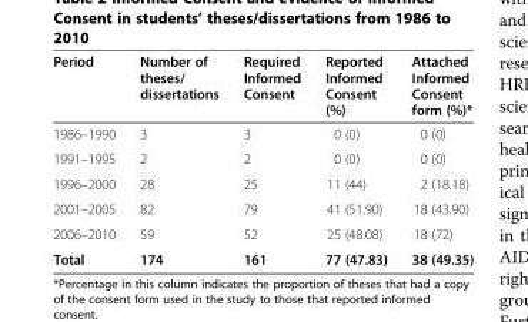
<table><thead><tr><td>Period</td><td>Number of theses/ dissertations</td><td>Required Informed Consent</td><td>Reported Informed Consent (%)</td><td>Attached Informed Consent form (%)*</td></tr></thead><tbody><tr><td>1986–1990</td><td>3</td><td>3</td><td>0 (0)</td><td>0 (0)</td></tr><tr><td>1991–1995</td><td>2</td><td>2</td><td>0 (0)</td><td>0 (0)</td></tr><tr><td>1996–2000</td><td>28</td><td>25</td><td>11 (44)</td><td>2 (18.18)</td></tr><tr><td>2001–2005</td><td>82</td><td>79</td><td>41 (51.90)</td><td>18 (43.90)</td></tr><tr><td>2006–2010</td><td>59</td><td>52</td><td>25 (48.08)</td><td>18 (72)</td></tr><tr><td>Total</td><td>174</td><td>161</td><td>77 (47.83)</td><td>38 (49.35)</td></tr></tbody></table>